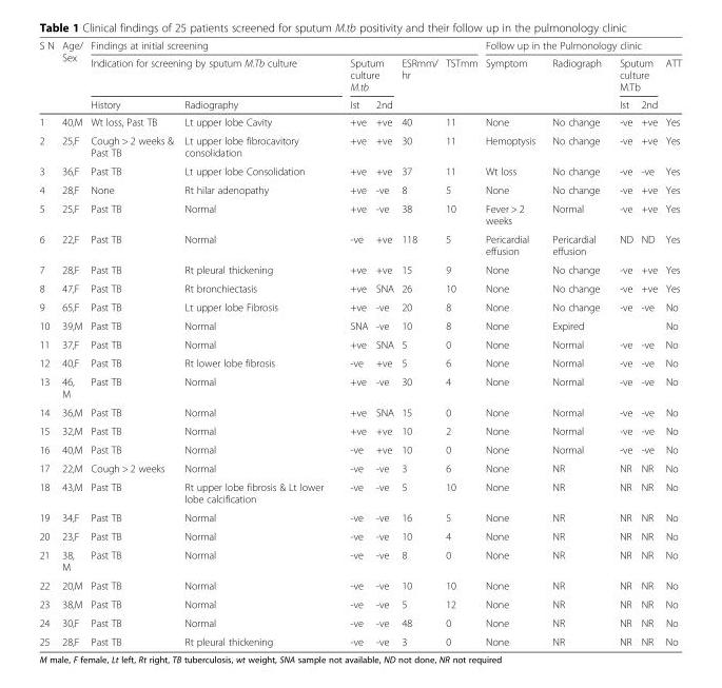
<table><thead><tr><td rowspan="3">S N</td><td rowspan="3">Age/ Sex</td><td colspan="6">Findings at initial screening</td><td colspan="5">Follow up in the Pulmonology clinic</td></tr><tr><td colspan="2">Indication for screening by sputum M.Tb culture</td><td colspan="2">Sputum culture M.tb</td><td rowspan="2">ESRmm/ hr</td><td rowspan="2">TSTmm</td><td rowspan="2">Symptom</td><td rowspan="2">Radiograph</td><td colspan="2">Sputum culture M.Tb</td><td rowspan="2">ATT</td></tr><tr><td>History</td><td>Radiography</td><td>Ist</td><td>2nd</td><td>Ist</td><td>2nd</td></tr></thead><tbody><tr><td>1</td><td>40,M</td><td>Wt loss, Past TB</td><td>Lt upper lobe Cavity</td><td>+ve</td><td>+ve</td><td>40</td><td>11</td><td>None</td><td>No change</td><td>-ve</td><td>+ve</td><td>Yes</td></tr><tr><td>2</td><td>25,F</td><td>Cough &gt; 2 weeks &amp; Past TB</td><td>Lt upper lobe fibrocavitory consolidation</td><td>+ve</td><td>+ve</td><td>30</td><td>11</td><td>Hemoptysis</td><td>No change</td><td>-ve</td><td>+ve</td><td>Yes</td></tr><tr><td>3</td><td>36,F</td><td>Past TB</td><td>Lt upper lobe Consolidation</td><td>+ve</td><td>+ve</td><td>37</td><td>11</td><td>Wt loss</td><td>No change</td><td>-ve</td><td>-ve</td><td>Yes</td></tr><tr><td>4</td><td>28,F</td><td>None</td><td>Rt hilar adenopathy</td><td>+ve</td><td>-ve</td><td>8</td><td>5</td><td>None</td><td>No change</td><td>-ve</td><td>+ve</td><td>Yes</td></tr><tr><td>5</td><td>25,F</td><td>Past TB</td><td>Normal</td><td>+ve</td><td>-ve</td><td>38</td><td>10</td><td>Fever &gt; 2 weeks</td><td>Normal</td><td>-ve</td><td>+ve</td><td>Yes</td></tr><tr><td>6</td><td>22,F</td><td>Past TB</td><td>Normal</td><td>-ve</td><td>+ve</td><td>118</td><td>5</td><td>Pericardial effusion</td><td>Pericardial effusion</td><td>ND</td><td>ND</td><td>Yes</td></tr><tr><td>7</td><td>28,F</td><td>Past TB</td><td>Rt pleural thickening</td><td>+ve</td><td>+ve</td><td>15</td><td>9</td><td>None</td><td>No change</td><td>-ve</td><td>+ve</td><td>Yes</td></tr><tr><td>8</td><td>47,F</td><td>Past TB</td><td>Rt bronchiectasis</td><td>+ve</td><td>SNA</td><td>26</td><td>10</td><td>None</td><td>No change</td><td>-ve</td><td>+ve</td><td>Yes</td></tr><tr><td>9</td><td>65,F</td><td>Past TB</td><td>Lt upper lobe Fibrosis</td><td>+ve</td><td>-ve</td><td>20</td><td>8</td><td>None</td><td>No change</td><td>-ve</td><td>-ve</td><td>No</td></tr><tr><td>10</td><td>39,M</td><td>Past TB</td><td>Normal</td><td>SNA</td><td>-ve</td><td>10</td><td>8</td><td>None</td><td>Expired</td><td></td><td></td><td>No</td></tr><tr><td>11</td><td>37,F</td><td>Past TB</td><td>Normal</td><td>+ve</td><td>SNA</td><td>5</td><td>0</td><td>None</td><td>Normal</td><td>-ve</td><td>-ve</td><td>No</td></tr><tr><td>12</td><td>40,F</td><td>Past TB</td><td>Rt lower lobe fibrosis</td><td>-ve</td><td>+ve</td><td>5</td><td>6</td><td>None</td><td>Normal</td><td>-ve</td><td>-ve</td><td>No</td></tr><tr><td>13</td><td>46, M</td><td>Past TB</td><td>Normal</td><td>+ve</td><td>-ve</td><td>30</td><td>4</td><td>None</td><td>Normal</td><td>-ve</td><td>-ve</td><td>No</td></tr><tr><td>14</td><td>36,M</td><td>Past TB</td><td>Normal</td><td>+ve</td><td>SNA</td><td>15</td><td>0</td><td>None</td><td>Normal</td><td>-ve</td><td>-ve</td><td>No</td></tr><tr><td>15</td><td>32,M</td><td>Past TB</td><td>Normal</td><td>+ve</td><td>+ve</td><td>10</td><td>2</td><td>None</td><td>Normal</td><td>-ve</td><td>-ve</td><td>No</td></tr><tr><td>16</td><td>40,M</td><td>Past TB</td><td>Normal</td><td>-ve</td><td>+ve</td><td>10</td><td>0</td><td>None</td><td>Normal</td><td>-ve</td><td>-ve</td><td>No</td></tr><tr><td>17</td><td>22,M</td><td>Cough &gt; 2 weeks</td><td>Normal</td><td>-ve</td><td>-ve</td><td>3</td><td>6</td><td>None</td><td>NR</td><td>NR</td><td>NR</td><td>No</td></tr><tr><td>18</td><td>43,M</td><td>Past TB</td><td>Rt upper lobe fibrosis &amp; Lt lower lobe calcification</td><td>-ve</td><td>-ve</td><td>5</td><td>10</td><td>None</td><td>NR</td><td>NR</td><td>NR</td><td>No</td></tr><tr><td>19</td><td>34,F</td><td>Past TB</td><td>Normal</td><td>-ve</td><td>-ve</td><td>16</td><td>5</td><td>None</td><td>NR</td><td>NR</td><td>NR</td><td>No</td></tr><tr><td>20</td><td>23,F</td><td>Past TB</td><td>Normal</td><td>-ve</td><td>-ve</td><td>10</td><td>4</td><td>None</td><td>NR</td><td>NR</td><td>NR</td><td>No</td></tr><tr><td>21</td><td>38, M</td><td>Past TB</td><td>Normal</td><td>-ve</td><td>-ve</td><td>8</td><td>0</td><td>None</td><td>NR</td><td>NR</td><td>NR</td><td>No</td></tr><tr><td>22</td><td>20,M</td><td>Past TB</td><td>Normal</td><td>-ve</td><td>-ve</td><td>10</td><td>10</td><td>None</td><td>NR</td><td>NR</td><td>NR</td><td>No</td></tr><tr><td>23</td><td>38,M</td><td>Past TB</td><td>Normal</td><td>-ve</td><td>-ve</td><td>5</td><td>12</td><td>None</td><td>NR</td><td>NR</td><td>NR</td><td>No</td></tr><tr><td>24</td><td>30,F</td><td>Past TB</td><td>Normal</td><td>-ve</td><td>-ve</td><td>48</td><td>0</td><td>None</td><td>NR</td><td>NR</td><td>NR</td><td>No</td></tr><tr><td>25</td><td>28,F</td><td>Past TB</td><td>Rt pleural thickening</td><td>-ve</td><td>-ve</td><td>3</td><td>0</td><td>None</td><td>NR</td><td>NR</td><td>NR</td><td>No</td></tr></tbody></table>